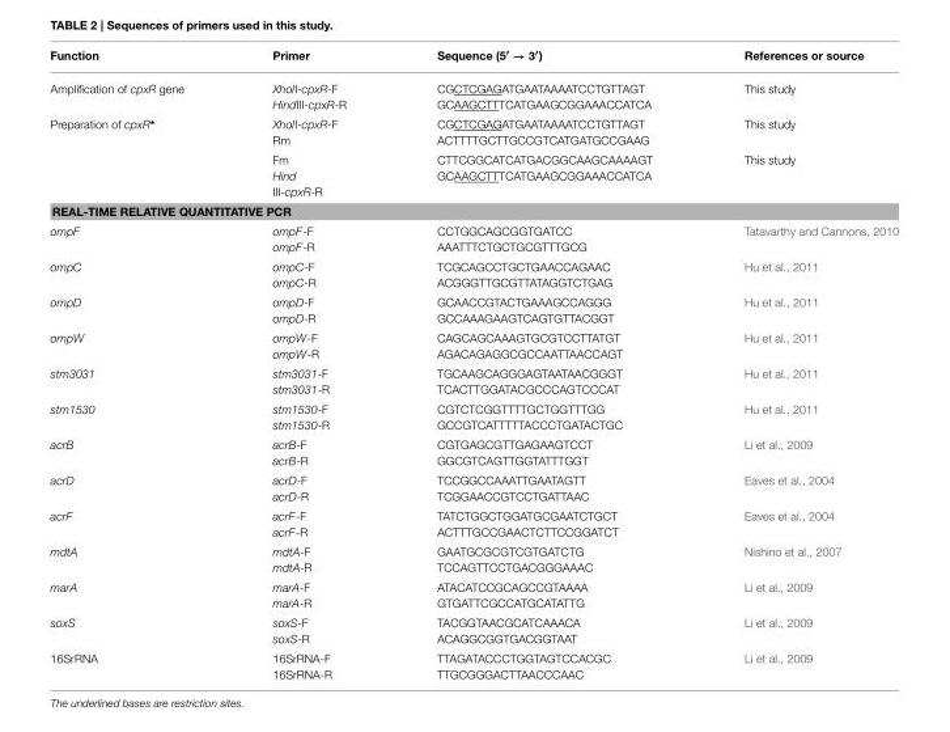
<table><thead><tr><td>Function</td><td>Primer</td><td>Sequence (5′ → 3′)</td><td>References or source</td></tr></thead><tbody><tr><td>Amplification of cpxR gene</td><td>XholI-cpxR-F HindIII-cpxR-R</td><td>CGCTCGAGATGAATAAAATCCTGTTAGT GCAAGCTTTCATGAAGCGGAAACCATCA</td><td>This study</td></tr><tr><td rowspan="2">Preparation of cpxR*</td><td>XholI-cpxR-F Rm</td><td>CGCTCGAGATGAATAAAATCCTGTTAGT ACTTTTGCTTGCCGTCATGATGCCGAAG</td><td>This study</td></tr><tr><td>Fm Hind III-cpxR-R</td><td>CTTCGGCATCATGACGGCAAGCAAAAGT GCAAGCTTTCATGAAGCGGAAACCATCA</td><td>This study</td></tr><tr><td colspan="4">REAL-TIME RELATIVE QUANTITATIVE PCR</td></tr><tr><td>ompF</td><td>ompF-F ompF-R</td><td>CCTGGCAGCGGTGATCC AAATTTCTGCTGCGTTTGCG</td><td>Tatavarthy and Cannons, 2010</td></tr><tr><td>ompC</td><td>ompC-F ompC-R</td><td>TCGCAGCCTGCTGAACCAGAAC ACGGGTTGCGTTATAGGTCTGAG</td><td>Hu et al., 2011</td></tr><tr><td>ompD</td><td>ompD-F ompD-R</td><td>GCAACCGTACTGAAAGCCAGGG GCCAAAGAAGTCAGTGTTACGGT</td><td>Hu et al., 2011</td></tr><tr><td>ompW</td><td>ompW-F ompW-R</td><td>CAGCAGCAAAGTGCGTCCTTATGT AGACAGAGGCGCCAATTAACCAGT</td><td>Hu et al., 2011</td></tr><tr><td>stm3031</td><td>stm3031-F stm3031-R</td><td>TGCAAGCAGGGAGTAATAACGGGT TCACTTGGATACGCCCAGTCCCAT</td><td>Hu et al., 2011</td></tr><tr><td>stm1530</td><td>stm1530-F stm1530-R</td><td>CGTCTCGGTTTTGCTGGTTTGG GCCGTCATTTTTACCCTGATACTGC</td><td>Hu et al., 2011</td></tr><tr><td>acrB</td><td>acrB-F acrB-R</td><td>CGTGAGCGTTGAGAAGTCCT GGCGTCAGTTGGTATTTGGT</td><td>Li et al., 2009</td></tr><tr><td>acrD</td><td>acrD-F acrD-R</td><td>TCCGGCCAAATTGAATAGTT TCGGAACCGTCCTGATTAAC</td><td>Eaves et al., 2004</td></tr><tr><td>acrF</td><td>acrF-F acrF-R</td><td>TATCTGGCTGGATGCGAATCTGCT ACTTTGCCGAACTCTTCCGGATCT</td><td>Eaves et al., 2004</td></tr><tr><td>mdtA</td><td>mdtA-F mdtA-R</td><td>GAATGCGCGTCGTGATCTG TCCAGTTCCTGACGGGAAAC</td><td>Nishino et al., 2007</td></tr><tr><td>marA</td><td>marA-F marA-R</td><td>ATACATCCGCAGCCGTAAAA GTGATTCGCCATGCATATTG</td><td>Li et al., 2009</td></tr><tr><td>soxS</td><td>soxS-F soxS-R</td><td>TACGGTAACGCATCAAACA ACAGGCGGTGACGGTAAT</td><td>Li et al., 2009</td></tr><tr><td>16SrRNA</td><td>16SrRNA-F 16SrRNA-R</td><td>TTAGATACCCTGGTAGTCCACGC TTGCGGGACTTAACCCAAC</td><td>Li et al., 2009</td></tr></tbody></table>